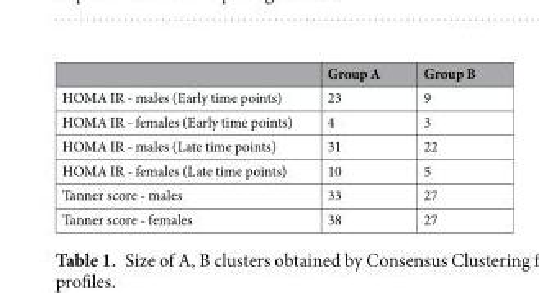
<table><thead><tr><td></td><td>Group A</td><td>Group B</td></tr></thead><tbody><tr><td>HOMA IR - males (Early time points)</td><td>23</td><td>9</td></tr><tr><td>HOMA IR - females (Early time points)</td><td>4</td><td>3</td></tr><tr><td>HOMA IR - males (Late time points)</td><td>31</td><td>22</td></tr><tr><td>HOMA IR - females (Late time points)</td><td>10</td><td>5</td></tr><tr><td>Tanner score - males</td><td>33</td><td>27</td></tr><tr><td>Tanner score - females</td><td>38</td><td>27</td></tr></tbody></table>